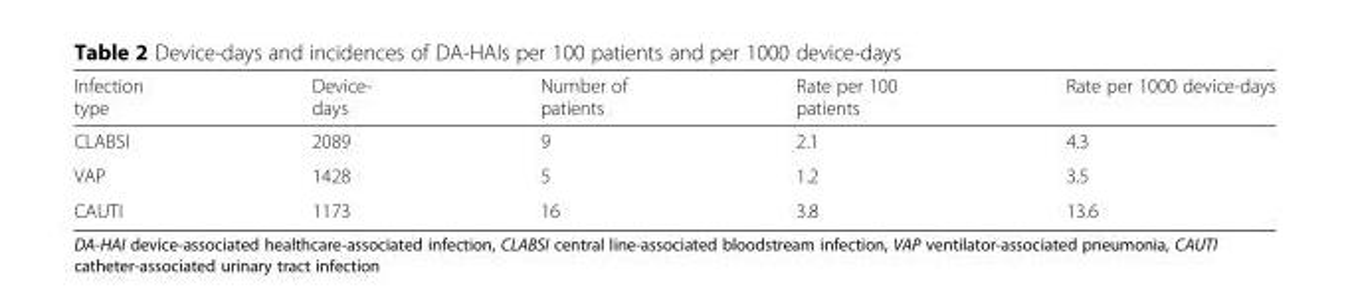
<table><thead><tr><td>Infection type</td><td>Device- days</td><td>Number of patients</td><td>Rate per 100 patients</td><td>Rate per 1000 device-days</td></tr></thead><tbody><tr><td>CLABSI</td><td>2089</td><td>9</td><td>2.1</td><td>4.3</td></tr><tr><td>VAP</td><td>1428</td><td>5</td><td>1.2</td><td>3.5</td></tr><tr><td>CAUTI</td><td>1173</td><td>16</td><td>3.8</td><td>13.6</td></tr></tbody></table>